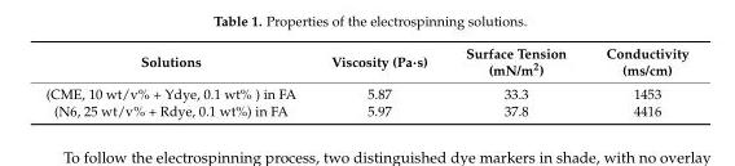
<table><thead><tr><td>Solutions</td><td>Viscosity (Pa·s)</td><td>Surface Tension (mN/m<sup>2</sup>)</td><td>Conductivity (ms/cm)</td></tr></thead><tbody><tr><td>(CME, 10 wt/v% + Ydye, 0.1 wt% ) in FA</td><td>5.87</td><td>33.3</td><td>1453</td></tr><tr><td>(N6, 25 wt/v% + Rdye, 0.1 wt%) in FA</td><td>5.97</td><td>37.8</td><td>4416</td></tr></tbody></table>